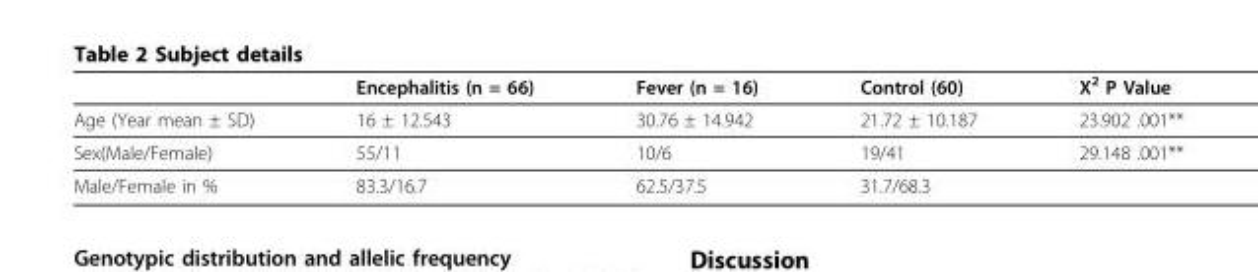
<table><thead><tr><td></td><td>Encephalitis (n = 66)</td><td>Fever (n = 16)</td><td>Control (60)</td><td>Χ<sup>2</sup> P Value</td></tr></thead><tbody><tr><td>Age (Year mean ± SD)</td><td>16 ± 12.543</td><td>30.76 ± 14.942</td><td>21.72 ± 10.187</td><td>23.902 .001**</td></tr><tr><td>Sex(Male/Female)</td><td>55/11</td><td>10/6</td><td>19/41</td><td>29.148 .001**</td></tr><tr><td>Male/Female in %</td><td>83.3/16.7</td><td>62.5/37.5</td><td>31.7/68.3</td><td></td></tr></tbody></table>